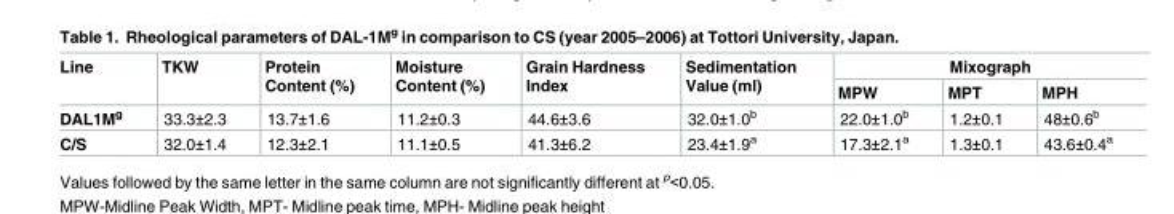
<table><thead><tr><td rowspan="2">Line</td><td rowspan="2">TKW</td><td rowspan="2">Protein Content (%)</td><td rowspan="2">Moisture Content (%)</td><td rowspan="2">Grain Hardness Index</td><td rowspan="2">Sedimentation Value (ml)</td><td colspan="3">Mixograph</td></tr><tr><td>MPW</td><td>MPT</td><td>MPH</td></tr></thead><tbody><tr><td>DAL1M<sup>g</sup></td><td>33.3±2.3</td><td>13.7±1.6</td><td>11.2±0.3</td><td>44.6±3.6</td><td>32.0±1.0<sup>b</sup></td><td>22.0±1.0<sup>b</sup></td><td>1.2±0.1</td><td>48±0.6<sup>b</sup></td></tr><tr><td>C/S</td><td>32.0±1.4</td><td>12.3±2.1</td><td>11.1±0.5</td><td>41.3±6.2</td><td>23.4±1.9<sup>a</sup></td><td>17.3±2.1<sup>a</sup></td><td>1.3±0.1</td><td>43.6±0.4<sup>a</sup></td></tr></tbody></table>